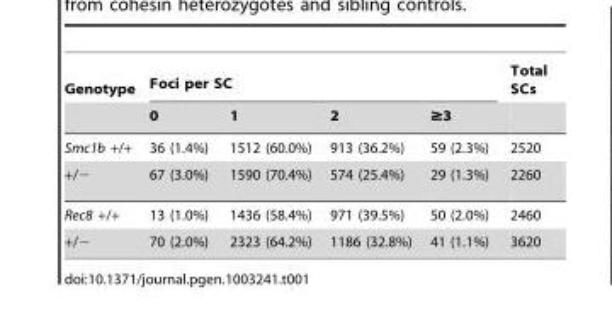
<table><thead><tr><td rowspan="2">Genotype</td><td colspan="4">Foci per SC</td><td rowspan="2">Total SCs</td></tr><tr><td>0</td><td>1</td><td>2</td><td>≥3</td></tr></thead><tbody><tr><td>Smc1b +/+</td><td>36 (1.4%)</td><td>1512 (60.0%)</td><td>913 (36.2%)</td><td>59 (2.3%)</td><td>2520</td></tr><tr><td>+/−</td><td>67 (3.0%)</td><td>1590 (70.4%)</td><td>574 (25.4%)</td><td>29 (1.3%)</td><td>2260</td></tr><tr><td>Rec8 +/+</td><td>13 (1.0%)</td><td>1436 (58.4%)</td><td>971 (39.5%)</td><td>50 (2.0%)</td><td>2460</td></tr><tr><td>+/−</td><td>70 (2.0%)</td><td>2323 (64.2%)</td><td>1186 (32.8%)</td><td>41 (1.1%)</td><td>3620</td></tr></tbody></table>